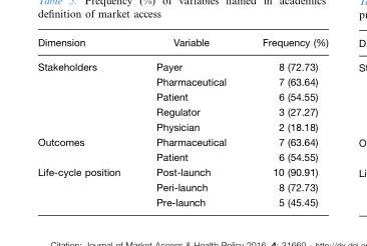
<table><thead><tr><td>Dimension</td><td>Variable</td><td>Frequency (%)</td></tr></thead><tbody><tr><td rowspan="5">Stakeholders</td><td>Payer</td><td>8 (72.73)</td></tr><tr><td>Pharmaceutical</td><td>7 (63.64)</td></tr><tr><td>Patient</td><td>6 (54.55)</td></tr><tr><td>Regulator</td><td>3 (27.27)</td></tr><tr><td>Physician</td><td>2 (18.18)</td></tr><tr><td rowspan="2">Outcomes</td><td>Pharmaceutical</td><td>7 (63.64)</td></tr><tr><td>Patient</td><td>6 (54.55)</td></tr><tr><td rowspan="3">Life-cycle position</td><td>Post-launch</td><td>10 (90.91)</td></tr><tr><td>Peri-launch</td><td>8 (72.73)</td></tr><tr><td>Pre-launch</td><td>5 (45.45)</td></tr></tbody></table>